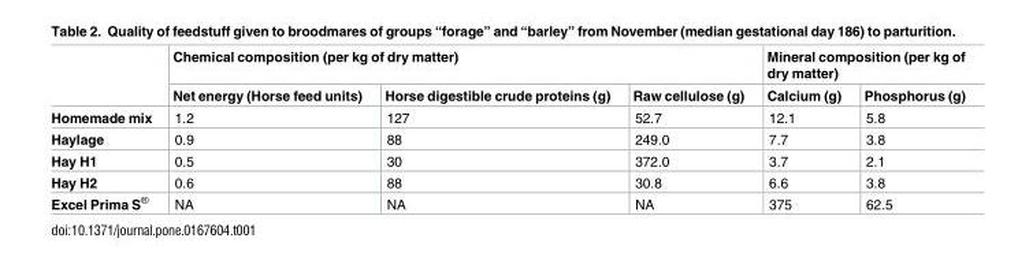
<table><thead><tr><td rowspan="2"></td><td colspan="3">Chemical composition (per kg of dry matter)</td><td colspan="2">Mineral composition (per kg of dry matter)</td></tr><tr><td>Net energy (Horse feed units)</td><td>Horse digestible crude proteins (g)</td><td>Raw cellulose (g)</td><td>Calcium (g)</td><td>Phosphorus (g)</td></tr></thead><tbody><tr><td>Homemade mix</td><td>1.2</td><td>127</td><td>52.7</td><td>12.1</td><td>5.8</td></tr><tr><td>Haylage</td><td>0.9</td><td>88</td><td>249.0</td><td>7.7</td><td>3.8</td></tr><tr><td>Hay H1</td><td>0.5</td><td>30</td><td>372.0</td><td>3.7</td><td>2.1</td></tr><tr><td>Hay H2</td><td>0.6</td><td>88</td><td>30.8</td><td>6.6</td><td>3.8</td></tr><tr><td>Excel Prima S<sup>®</sup></td><td>NA</td><td>NA</td><td>NA</td><td>375</td><td>62.5</td></tr></tbody></table>